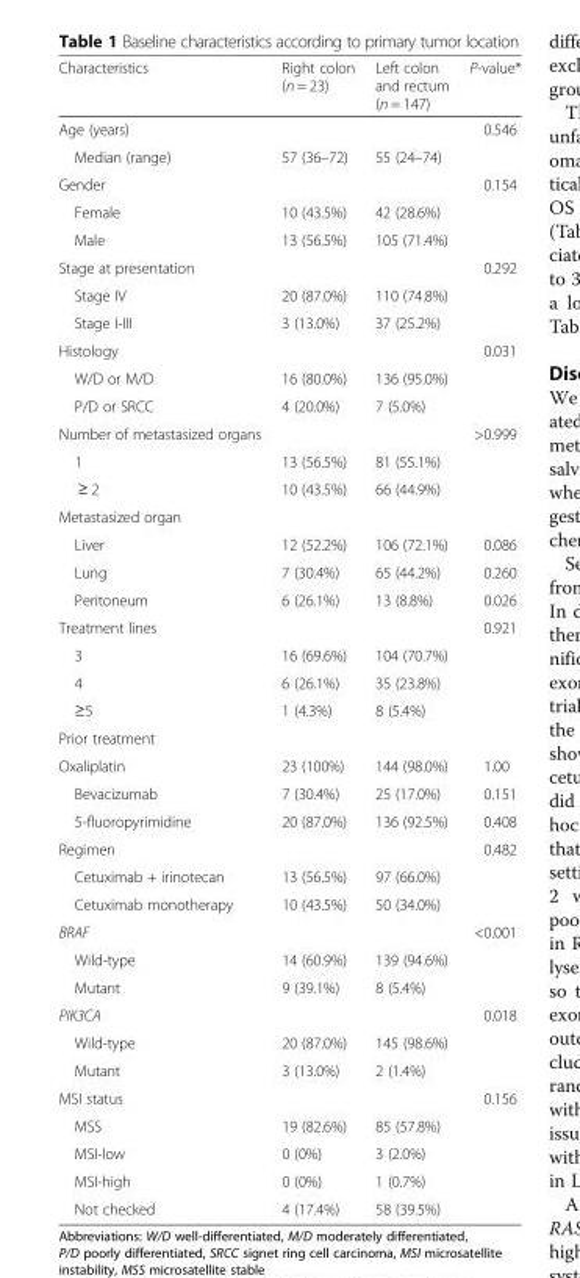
<table><thead><tr><td>Characteristics</td><td>Right colon (n = 23)</td><td>Left colon and rectum (n = 147)</td><td>P-value*</td></tr></thead><tbody><tr><td>Age (years)</td><td></td><td></td><td>0.546</td></tr><tr><td>Median (range)</td><td>57 (36–72)</td><td>55 (24–74)</td><td></td></tr><tr><td>Gender</td><td></td><td></td><td>0.154</td></tr><tr><td>Female</td><td>10 (43.5%)</td><td>42 (28.6%)</td><td></td></tr><tr><td>Male</td><td>13 (56.5%)</td><td>105 (71.4%)</td><td></td></tr><tr><td>Stage at presentation</td><td></td><td></td><td>0.292</td></tr><tr><td>Stage IV</td><td>20 (87.0%)</td><td>110 (74.8%)</td><td></td></tr><tr><td>Stage I-III</td><td>3 (13.0%)</td><td>37 (25.2%)</td><td></td></tr><tr><td>Histology</td><td></td><td></td><td>0.031</td></tr><tr><td>W/D or M/D</td><td>16 (80.0%)</td><td>136 (95.0%)</td><td></td></tr><tr><td>P/D or SRCC</td><td>4 (20.0%)</td><td>7 (5.0%)</td><td></td></tr><tr><td>Number of metastasized organs</td><td></td><td></td><td>&gt;0.999</td></tr><tr><td>1</td><td>13 (56.5%)</td><td>81 (55.1%)</td><td></td></tr><tr><td>≥ 2</td><td>10 (43.5%)</td><td>66 (44.9%)</td><td></td></tr><tr><td colspan="4">Metastasized organ</td></tr><tr><td>Liver</td><td>12 (52.2%)</td><td>106 (72.1%)</td><td>0.086</td></tr><tr><td>Lung</td><td>7 (30.4%)</td><td>65 (44.2%)</td><td>0.260</td></tr><tr><td>Peritoneum</td><td>6 (26.1%)</td><td>13 (8.8%)</td><td>0.026</td></tr><tr><td>Treatment lines</td><td></td><td></td><td>0.921</td></tr><tr><td>3</td><td>16 (69.6%)</td><td>104 (70.7%)</td><td></td></tr><tr><td>4</td><td>6 (26.1%)</td><td>35 (23.8%)</td><td></td></tr><tr><td>≥5</td><td>1 (4.3%)</td><td>8 (5.4%)</td><td></td></tr><tr><td colspan="4">Prior treatment</td></tr><tr><td>Oxaliplatin</td><td>23 (100%)</td><td>144 (98.0%)</td><td>1.00</td></tr><tr><td>Bevacizumab</td><td>7 (30.4%)</td><td>25 (17.0%)</td><td>0.151</td></tr><tr><td>5-fluoropyrimidine</td><td>20 (87.0%)</td><td>136 (92.5%)</td><td>0.408</td></tr><tr><td>Regimen</td><td></td><td></td><td>0.482</td></tr><tr><td>Cetuximab + irinotecan</td><td>13 (56.5%)</td><td>97 (66.0%)</td><td></td></tr><tr><td>Cetuximab monotherapy</td><td>10 (43.5%)</td><td>50 (34.0%)</td><td></td></tr><tr><td>BRAF</td><td></td><td></td><td>&lt;0.001</td></tr><tr><td>Wild-type</td><td>14 (60.9%)</td><td>139 (94.6%)</td><td></td></tr><tr><td>Mutant</td><td>9 (39.1%)</td><td>8 (5.4%)</td><td></td></tr><tr><td>PIK3CA</td><td></td><td></td><td>0.018</td></tr><tr><td>Wild-type</td><td>20 (87.0%)</td><td>145 (98.6%)</td><td></td></tr><tr><td>Mutant</td><td>3 (13.0%)</td><td>2 (1.4%)</td><td></td></tr><tr><td>MSI status</td><td></td><td></td><td>0.156</td></tr><tr><td>MSS</td><td>19 (82.6%)</td><td>85 (57.8%)</td><td></td></tr><tr><td>MSI-low</td><td>0 (0%)</td><td>3 (2.0%)</td><td></td></tr><tr><td>MSI-high</td><td>0 (0%)</td><td>1 (0.7%)</td><td></td></tr><tr><td>Not checked</td><td>4 (17.4%)</td><td>58 (39.5%)</td><td></td></tr></tbody></table>